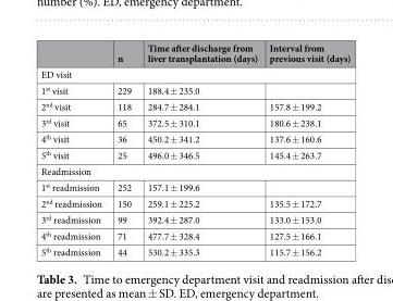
<table><thead><tr><td></td><td>n</td><td>Time after discharge from liver transplantation (days)</td><td>Interval from previous visit (days)</td></tr></thead><tbody><tr><td colspan="4">ED visit</td></tr><tr><td>1<sup>st</sup> visit</td><td>229</td><td>188.4 ± 235.0</td><td></td></tr><tr><td>2<sup>nd</sup> visit</td><td>118</td><td>284.7 ± 284.1</td><td>157.8 ± 199.2</td></tr><tr><td>3<sup>rd</sup> visit</td><td>65</td><td>372.5 ± 310.1</td><td>180.6 ± 238.1</td></tr><tr><td>4<sup>th</sup> visit</td><td>36</td><td>450.2 ± 341.2</td><td>137.6 ± 160.6</td></tr><tr><td>5<sup>th</sup> visit</td><td>25</td><td>496.0 ± 346.5</td><td>145.4 ± 263.7</td></tr><tr><td colspan="4">Readmission</td></tr><tr><td>1<sup>st</sup> readmission</td><td>252</td><td>157.1 ± 199.6</td><td></td></tr><tr><td>2<sup>nd</sup> readmission</td><td>150</td><td>259.1 ± 225.2</td><td>135.5 ± 172.7</td></tr><tr><td>3<sup>rd</sup> readmission</td><td>99</td><td>392.4 ± 287.0</td><td>133.0 ± 153.0</td></tr><tr><td>4<sup>th</sup> readmission</td><td>71</td><td>477.7 ± 328.4</td><td>127.5 ± 166.1</td></tr><tr><td>5<sup>th</sup> readmission</td><td>44</td><td>530.2 ± 335.3</td><td>115.7 ± 156.2</td></tr></tbody></table>